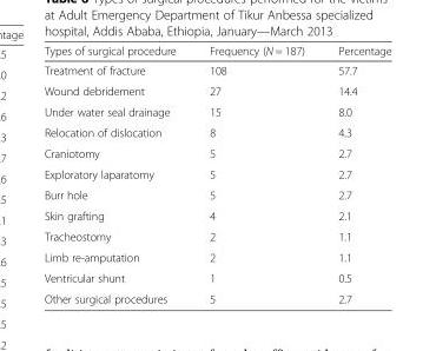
<table><thead><tr><td>Types of surgical procedure</td><td>Frequency (N = 187)</td><td>Percentage</td></tr></thead><tbody><tr><td>Treatment of fracture</td><td>108</td><td>57.7</td></tr><tr><td>Wound debridement</td><td>27</td><td>14.4</td></tr><tr><td>Under water seal drainage</td><td>15</td><td>8.0</td></tr><tr><td>Relocation of dislocation</td><td>8</td><td>4.3</td></tr><tr><td>Craniotomy</td><td>5</td><td>2.7</td></tr><tr><td>Exploratory laparatomy</td><td>5</td><td>2.7</td></tr><tr><td>Burr hole</td><td>5</td><td>2.7</td></tr><tr><td>Skin grafting</td><td>4</td><td>2.1</td></tr><tr><td>Tracheostomy</td><td>2</td><td>1.1</td></tr><tr><td>Limb re-amputation</td><td>2</td><td>1.1</td></tr><tr><td>Ventricular shunt</td><td>1</td><td>0.5</td></tr><tr><td>Other surgical procedures</td><td>5</td><td>2.7</td></tr></tbody></table>